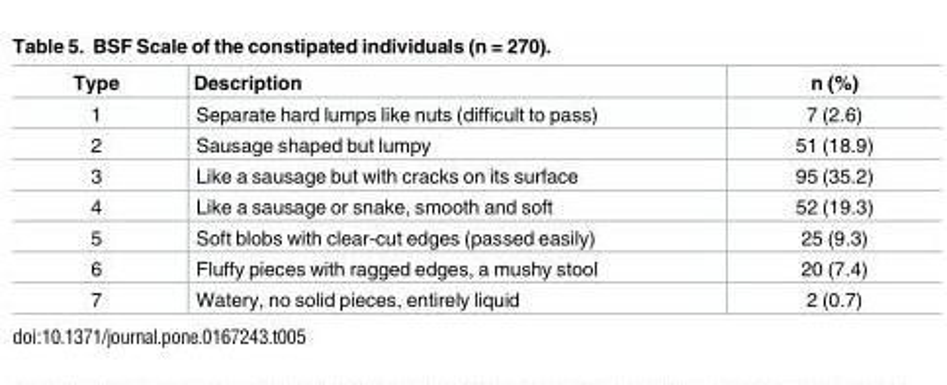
<table><thead><tr><td>Type</td><td>Description</td><td>n (%)</td></tr></thead><tbody><tr><td>1</td><td>Separate hard lumps like nuts (difficult to pass)</td><td>7 (2.6)</td></tr><tr><td>2</td><td>Sausage shaped but lumpy</td><td>51 (18.9)</td></tr><tr><td>3</td><td>Like a sausage but with cracks on its surface</td><td>95 (35.2)</td></tr><tr><td>4</td><td>Like a sausage or snake, smooth and soft</td><td>52 (19.3)</td></tr><tr><td>5</td><td>Soft blobs with clear-cut edges (passed easily)</td><td>25 (9.3)</td></tr><tr><td>6</td><td>Fluffy pieces with ragged edges, a mushy stool</td><td>20 (7.4)</td></tr><tr><td>7</td><td>Watery, no solid pieces, entirely liquid</td><td>2 (0.7)</td></tr></tbody></table>